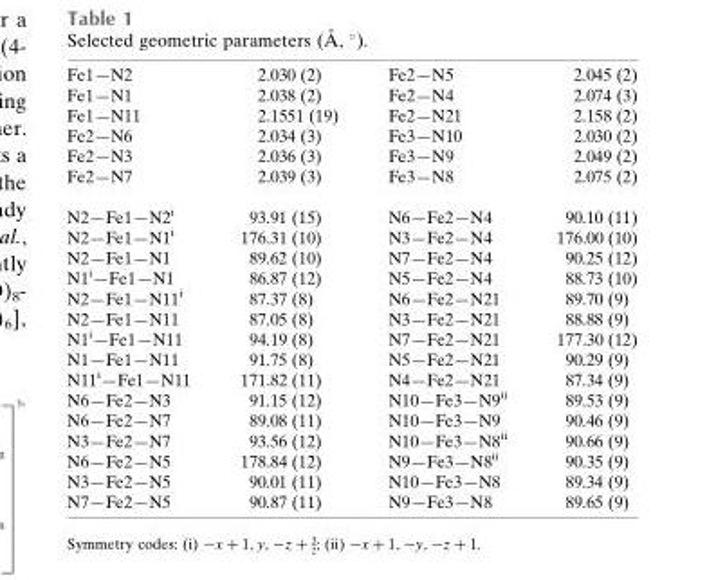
<table><tbody><tr><td>Fe1—N2</td><td>2.030 (2)</td><td>Fe2—N5</td><td>2.045 (2)</td></tr><tr><td>Fe1—N1</td><td>2.038 (2)</td><td>Fe2—N4</td><td>2.074 (3)</td></tr><tr><td>Fe1—N11</td><td>2.1551 (19)</td><td>Fe2—N21</td><td>2.158 (2)</td></tr><tr><td>Fe2—N6</td><td>2.034 (3)</td><td>Fe3—N10</td><td>2.030 (2)</td></tr><tr><td>Fe2—N3</td><td>2.036 (3)</td><td>Fe3—N9</td><td>2.049 (2)</td></tr><tr><td>Fe2—N7</td><td>2.039 (3)</td><td>Fe3—N8</td><td>2.075 (2)</td></tr><tr><td>N2—Fe1—N2<sup>i</sup></td><td>93.91 (15)</td><td>N6—Fe2—N4</td><td>90.10 (11)</td></tr><tr><td>N2—Fe1—N1<sup>i</sup></td><td>176.31 (10)</td><td>N3—Fe2—N4</td><td>176.00 (10)</td></tr><tr><td>N2—Fe1—N1</td><td>89.62 (10)</td><td>N7—Fe2—N4</td><td>90.25 (12)</td></tr><tr><td>N1<sup>i</sup>—Fe1—N1</td><td>86.87 (12)</td><td>N5—Fe2—N4</td><td>88.73 (10)</td></tr><tr><td>N2—Fe1—N11<sup>i</sup></td><td>87.37 (8)</td><td>N6—Fe2—N21</td><td>89.70 (9)</td></tr><tr><td>N2—Fe1—N11</td><td>87.05 (8)</td><td>N3—Fe2—N21</td><td>88.88 (9)</td></tr><tr><td>N1<sup>i</sup>—Fe1—N11</td><td>94.19 (8)</td><td>N7—Fe2—N21</td><td>177.30 (12)</td></tr><tr><td>N1—Fe1—N11</td><td>91.75 (8)</td><td>N5—Fe2—N21</td><td>90.29 (9)</td></tr><tr><td>N11<sup>i</sup>—Fe1—N11</td><td>171.82 (11)</td><td>N4—Fe2—N21</td><td>87.34 (9)</td></tr><tr><td>N6—Fe2—N3</td><td>91.15 (12)</td><td>N10—Fe3—N9<sup>ii</sup></td><td>89.53 (9)</td></tr><tr><td>N6—Fe2—N7</td><td>89.08 (11)</td><td>N10—Fe3—N9</td><td>90.46 (9)</td></tr><tr><td>N3—Fe2—N7</td><td>93.56 (12)</td><td>N10—Fe3—N8<sup>ii</sup></td><td>90.66 (9)</td></tr><tr><td>N6—Fe2—N5</td><td>178.84 (12)</td><td>N9—Fe3—N8<sup>ii</sup></td><td>90.35 (9)</td></tr><tr><td>N3—Fe2—N5</td><td>90.01 (11)</td><td>N10—Fe3—N8</td><td>89.34 (9)</td></tr><tr><td>N7—Fe2—N5</td><td>90.87 (11)</td><td>N9—Fe3—N8</td><td>89.65 (9)</td></tr></tbody></table>